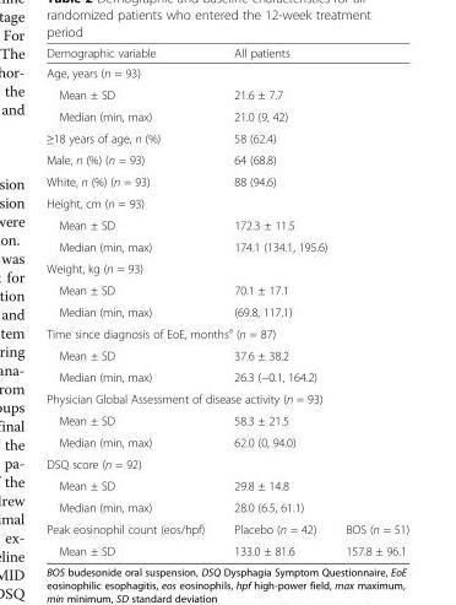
<table><thead><tr><td>Demographic variable</td><td colspan="2">All patients</td></tr></thead><tbody><tr><td colspan="3">Age, years (n = 93)</td></tr><tr><td>Mean ± SD</td><td colspan="2">21.6 ± 7.7</td></tr><tr><td>Median (min, max)</td><td colspan="2">21.0 (9, 42)</td></tr><tr><td>≥18 years of age, n (%)</td><td colspan="2">58 (62.4)</td></tr><tr><td>Male, n (%) (n = 93)</td><td colspan="2">64 (68.8)</td></tr><tr><td>White, n (%) (n = 93)</td><td colspan="2">88 (94.6)</td></tr><tr><td colspan="3">Height, cm (n = 93)</td></tr><tr><td>Mean ± SD</td><td colspan="2">172.3 ± 11.5</td></tr><tr><td>Median (min, max)</td><td colspan="2">174.1 (134.1, 195.6)</td></tr><tr><td colspan="3">Weight, kg (n = 93)</td></tr><tr><td>Mean ± SD</td><td colspan="2">70.1 ± 17.1</td></tr><tr><td>Median (min, max)</td><td colspan="2">(69.8, 117.1)</td></tr><tr><td colspan="3">Time since diagnosis of EoE, months<sup>a</sup> (n = 87)</td></tr><tr><td>Mean ± SD</td><td colspan="2">37.6 ± 38.2</td></tr><tr><td>Median (min, max)</td><td colspan="2">26.3 (−0.1, 164.2)</td></tr><tr><td colspan="3">Physician Global Assessment of disease activity (n = 93)</td></tr><tr><td>Mean ± SD</td><td colspan="2">58.3 ± 21.5</td></tr><tr><td>Median (min, max)</td><td colspan="2">62.0 (0, 94.0)</td></tr><tr><td colspan="3">DSQ score (n = 92)</td></tr><tr><td>Mean ± SD</td><td colspan="2">29.8 ± 14.8</td></tr><tr><td>Median (min, max)</td><td colspan="2">28.0 (6.5, 61.1)</td></tr><tr><td>Peak eosinophil count (eos/hpf)</td><td>Placebo (n = 42)</td><td>BOS (n = 51)</td></tr><tr><td>Mean ± SD</td><td>133.0 ± 81.6</td><td>157.8 ± 96.1</td></tr></tbody></table>